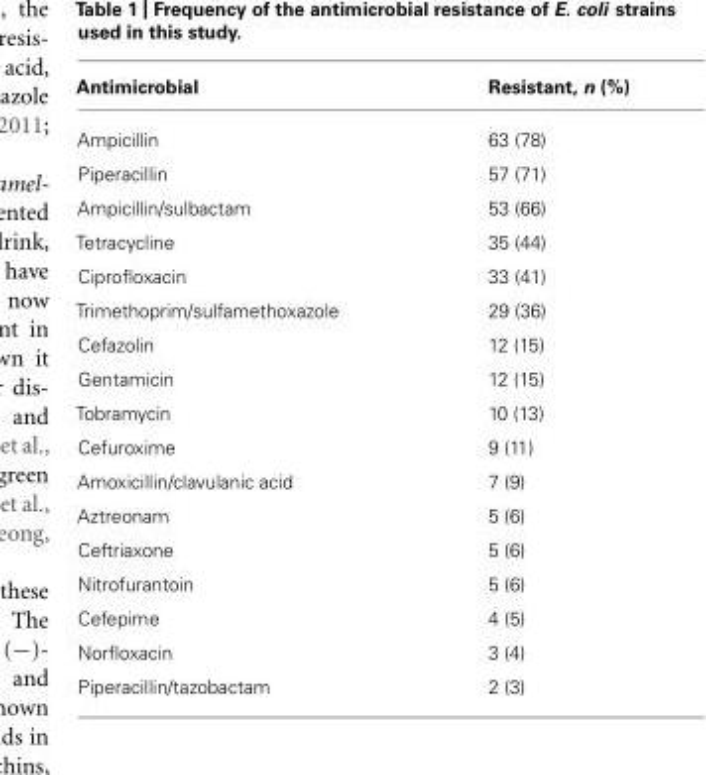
<table><thead><tr><td>Antimicrobial</td><td>Resistant, n (%)</td></tr></thead><tbody><tr><td>Ampicillin</td><td>63 (78)</td></tr><tr><td>Piperacillin</td><td>57 (71)</td></tr><tr><td>Ampicillin/sulbactam</td><td>53 (66)</td></tr><tr><td>Tetracycline</td><td>35 (44)</td></tr><tr><td>Ciprofloxacin</td><td>33 (41)</td></tr><tr><td>Trimethoprim/sulfamethoxazole</td><td>29 (36)</td></tr><tr><td>Cefazolin</td><td>12 (15)</td></tr><tr><td>Gentamicin</td><td>12 (15)</td></tr><tr><td>Tobramycin</td><td>10 (13)</td></tr><tr><td>Cefuroxime</td><td>9 (11)</td></tr><tr><td>Amoxicillin/clavulanic acid</td><td>7 (9)</td></tr><tr><td>Aztreonam</td><td>5 (6)</td></tr><tr><td>Ceftriaxone</td><td>5 (6)</td></tr><tr><td>Nitrofurantoin</td><td>5 (6)</td></tr><tr><td>Cefepime</td><td>4 (5)</td></tr><tr><td>Norfloxacin</td><td>3 (4)</td></tr><tr><td>Piperacillin/tazobactam</td><td>2 (3)</td></tr></tbody></table>